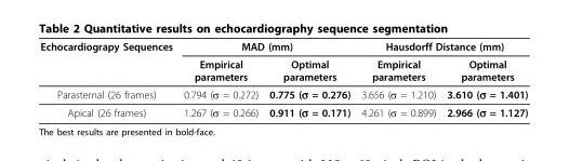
<table><thead><tr><td rowspan="2">Echocardiograpy Sequences</td><td colspan="2">MAD (mm)</td><td colspan="2">Hausdorff Distance (mm)</td></tr><tr><td>Empirical parameters</td><td>Optimal parameters</td><td>Empirical parameters</td><td>Optimal parameters</td></tr></thead><tbody><tr><td>Parasternal (26 frames)</td><td>0.794 (σ = 0.272)</td><td>0.775 (σ = 0.276)</td><td>3.656 (σ = 1.210)</td><td>3.610 (σ = 1.401)</td></tr><tr><td>Apical (26 frames)</td><td>1.267 (σ = 0.266)</td><td>0.911 (σ = 0.171)</td><td>4.261 (σ = 0.899)</td><td>2.966 (σ = 1.127)</td></tr></tbody></table>